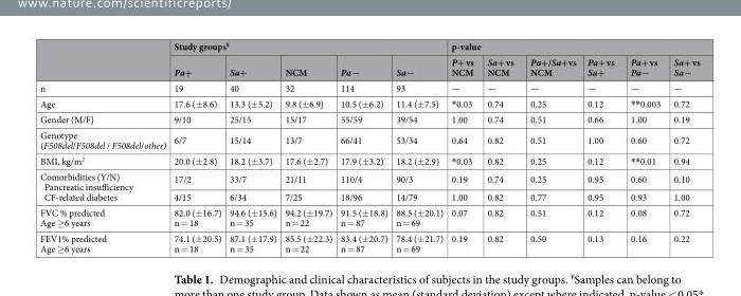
<table><thead><tr><td rowspan="2"></td><td colspan="5">Study groups<sup>¥</sup></td><td colspan="6">p-value</td></tr><tr><td>Pa+</td><td>Sa+</td><td>NCM</td><td>Pa−</td><td>Sa−</td><td>P+ vs NCM</td><td>Sa+ vs NCM</td><td>Pa+/Sa+vs NCM</td><td>Pa+ vs Sa+</td><td>Pa+ vs Pa−</td><td>Sa+ vs Sa−</td></tr></thead><tbody><tr><td>n</td><td>19</td><td>40</td><td>32</td><td>114</td><td>93</td><td>—</td><td>—</td><td>—</td><td>—</td><td>—</td><td>—</td></tr><tr><td>Age</td><td>17.6 (±8.6)</td><td>13.3 (±5.2)</td><td>9.8 (±6.9)</td><td>10.5 (±6.2)</td><td>11.4 (±7.5)</td><td>*0.03</td><td>0.74</td><td>0.25</td><td>0.12</td><td>**0.003</td><td>0.72</td></tr><tr><td>Gender (M/F)</td><td>9/10</td><td>25/15</td><td>15/17</td><td>55/59</td><td>39/54</td><td>1.00</td><td>0.74</td><td>0.51</td><td>0.66</td><td>1.00</td><td>0.19</td></tr><tr><td>Genotype (F508del/F508del / F508del/other)</td><td>6/7</td><td>15/14</td><td>13/7</td><td>66/41</td><td>53/34</td><td>0.64</td><td>0.82</td><td>0.51</td><td>1.00</td><td>0.60</td><td>0.72</td></tr><tr><td>BMI, kg/m<sup>2</sup></td><td>20.0 (±2.8)</td><td>18.2 (±3.7)</td><td>17.6 (±2.7)</td><td>17.9 (±3.2)</td><td>18.2 (±2.9)</td><td>*0.03</td><td>0.82</td><td>0.25</td><td>0.12</td><td>**0.01</td><td>0.94</td></tr><tr><td rowspan="2">Comorbidities (Y/N) Pancreatic insufficiency CF-related diabetes</td><td>17/2</td><td>33/7</td><td>21/11</td><td>110/4</td><td>90/3</td><td>0.19</td><td>0.74</td><td>0.25</td><td>0.95</td><td>0.60</td><td>0.10</td></tr><tr><td>4/15</td><td>6/34</td><td>7/25</td><td>18/96</td><td>14/79</td><td>1.00</td><td>0.82</td><td>0.77</td><td>0.95</td><td>0.93</td><td>1.00</td></tr><tr><td>FVC % predicted Age ≥6 years</td><td>82.0 (±16.7) n = 18</td><td>94.6 (±15.6) n = 35</td><td>94.2 (±19.7) n = 22</td><td>91.5 (±18.8) n = 87</td><td>88.5 (±20.1) n = 69</td><td>0.07</td><td>0.82</td><td>0.51</td><td>0.12</td><td>0.08</td><td>0.72</td></tr><tr><td>FEV1% predicted Age ≥6 years</td><td>74.1 (±20.5) n = 18</td><td>87.1 (±17.9) n = 35</td><td>85.5 (±22.3) n = 22</td><td>83.4 (±20.7) n = 87</td><td>78.4 (±21.7) n = 69</td><td>0.19</td><td>0.82</td><td>0.50</td><td>0.13</td><td>0.16</td><td>0.22</td></tr></tbody></table>